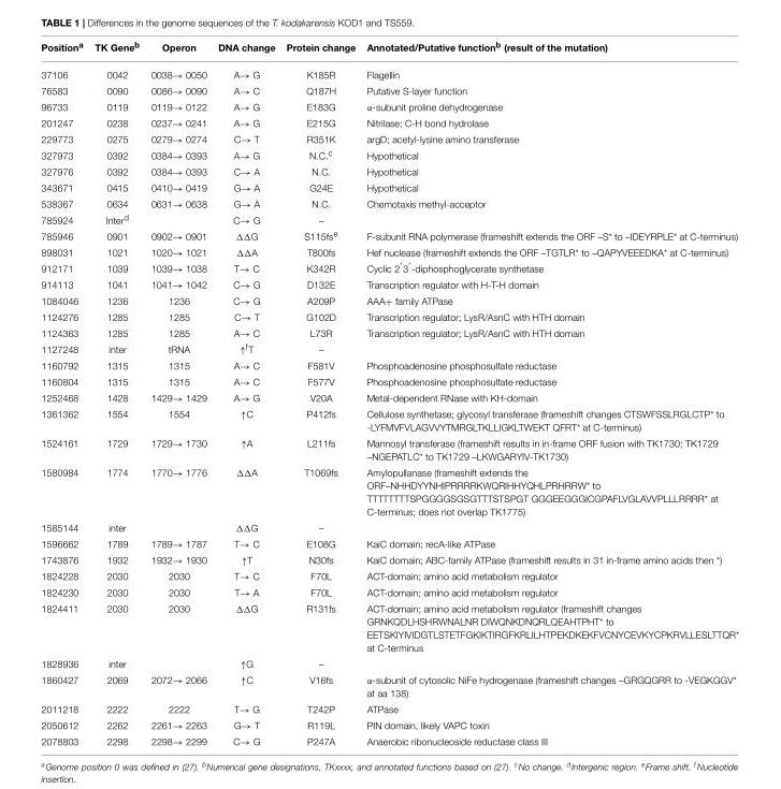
<table><thead><tr><td>Position<sup>a</sup></td><td>TK Gene<sup>b</sup></td><td>Operon</td><td>DNA change</td><td>Protein change</td><td>Annotated/Putative function<sup>b</sup> (result of the mutation)</td></tr></thead><tbody><tr><td>37106</td><td>0042</td><td>0038→ 0050</td><td>A→ G</td><td>K185R</td><td>Flagellin</td></tr><tr><td>76583</td><td>0090</td><td>0086→ 0090</td><td>A→ C</td><td>Q187H</td><td>Putative S-layer function</td></tr><tr><td>96733</td><td>0119</td><td>0119→ 0122</td><td>A→ G</td><td>E183G</td><td>α-subunit proline dehydrogenase</td></tr><tr><td>201247</td><td>0238</td><td>0237→ 0241</td><td>A→ G</td><td>E215G</td><td>Nitrilase; C-H bond hydrolase</td></tr><tr><td>229773</td><td>0275</td><td>0279→ 0274</td><td>C→ T</td><td>R351K</td><td>argD; acetyl-lysine amino transferase</td></tr><tr><td>327973</td><td>0392</td><td>0384→ 0393</td><td>A→ G</td><td>N.C.<sup>c</sup></td><td>Hypothetical</td></tr><tr><td>327976</td><td>0392</td><td>0384→ 0393</td><td>C→ A</td><td>N.C.</td><td>Hypothetical</td></tr><tr><td>343671</td><td>0415</td><td>0410→ 0419</td><td>G→ A</td><td>G24E</td><td>Hypothetical</td></tr><tr><td>538367</td><td>0634</td><td>0631→ 0638</td><td>G→ A</td><td>N.C.</td><td>Chemotaxis methyl-acceptor</td></tr><tr><td>785924</td><td>Inter<sup>d</sup></td><td></td><td>C→ G</td><td>–</td><td></td></tr><tr><td>785946</td><td>0901</td><td>0902→ 0901</td><td>ΔΔG</td><td>S115fs<sup>e</sup></td><td>F-subunit RNA polymerase (frameshift extends the ORF –S* to –IDEYRPLE* at C-terminus)</td></tr><tr><td>898031</td><td>1021</td><td>1020→ 1021</td><td>ΔΔA</td><td>T800fs</td><td>Hef nuclease (frameshift extends the ORF –TGTLR* to –QAPYVEEEDKA* at C-terminus)</td></tr><tr><td>912171</td><td>1039</td><td>1039→ 1038</td><td>T→ C</td><td>K342R</td><td>Cyclic 2 ′3 ′-diphosphoglycerate synthetase</td></tr><tr><td>914113</td><td>1041</td><td>1041→ 1042</td><td>C→ G</td><td>D132E</td><td>Transcription regulator with H-T-H domain</td></tr><tr><td>1084046</td><td>1236</td><td>1236</td><td>C→ G</td><td>A209P</td><td>AAA+ family ATPase</td></tr><tr><td>1124276</td><td>1285</td><td>1285</td><td>C→ T</td><td>G102D</td><td>Transcription regulator; LysR/AsnC with HTH domain</td></tr><tr><td>1124363</td><td>1285</td><td>1285</td><td>A→ C</td><td>L73R</td><td>Transcription regulator; LysR/AsnC with HTH domain</td></tr><tr><td>1127248</td><td>inter</td><td>tRNA</td><td>↑<sup>f</sup>T</td><td>–</td><td></td></tr><tr><td>1160792</td><td>1315</td><td>1315</td><td>A→ C</td><td>F581V</td><td>Phosphoadenosine phosphosulfate reductase</td></tr><tr><td>1160804</td><td>1315</td><td>1315</td><td>A→ C</td><td>F577V</td><td>Phosphoadenosine phosphosulfate reductase</td></tr><tr><td>1252468</td><td>1428</td><td>1429→ 1429</td><td>A→ G</td><td>V20A</td><td>Metal-dependent RNase with KH-domain</td></tr><tr><td>1361362</td><td>1554</td><td>1554</td><td>↑C</td><td>P412fs</td><td>Cellulose synthetase; glycosyl transferase (frameshift changes CTSWFSSLRGLCTP* to -LYFMVFVLAGVVYTMRGLTKLLIGKLTWEKT QFRT* at C-terminus)</td></tr><tr><td>1524161</td><td>1729</td><td>1729→ 1730</td><td>↑A</td><td>L211fs</td><td>Mannosyl transferase (frameshift results in in-frame ORF fusion with TK1730; TK1729 –NGEPATLC* to TK1729 –LKWGARYIV-TK1730)</td></tr><tr><td>1580984</td><td>1774</td><td>1770→ 1776</td><td>ΔΔA</td><td>T1069fs</td><td>Amylopullanase (frameshift extends the ORF–NHHDYYNHIPRRRRKWQRIHHYQHLPRHRRW* to TTTTTTTTSPGGGGSGSGTTTSTSPGT GGGEEGGGICGPAFLVGLAVVPLLLRRRR* at C-terminus; does not overlap TK1775)</td></tr><tr><td>1585144</td><td>inter</td><td></td><td>ΔΔG</td><td>–</td><td></td></tr><tr><td>1596662</td><td>1789</td><td>1789→ 1787</td><td>T→ C</td><td>E108G</td><td>KaiC domain; recA-like ATPase</td></tr><tr><td>1743876</td><td>1932</td><td>1932→ 1930</td><td>↑T</td><td>N30fs</td><td>KaiC domain; ABC-family ATPase (frameshift results in 31 in-frame amino acids then *)</td></tr><tr><td>1824228</td><td>2030</td><td>2030</td><td>T→ C</td><td>F70L</td><td>ACT-domain; amino acid metabolism regulator</td></tr><tr><td>1824230</td><td>2030</td><td>2030</td><td>T→ A</td><td>F70L</td><td>ACT-domain; amino acid metabolism regulator</td></tr><tr><td>1824411</td><td>2030</td><td>2030</td><td>ΔΔG</td><td>R131fs</td><td>ACT-domain; amino acid metabolism regulator (frameshift changes GRNKQDLHSHRWNALNR DIWQNKDNQRLQEAHTPHT* to EETSKIYIVIDGTLSTETFGKIKTIRGFKRLILHTPEKDKEKFVCNYCEVKYCPKRVLLESLTTQR* at C-terminus</td></tr><tr><td>1828936</td><td>inter</td><td></td><td>↑G</td><td>–</td><td></td></tr><tr><td>1860427</td><td>2069</td><td>2072→ 2066</td><td>↑C</td><td>V16fs</td><td>α-subunit of cytosolic NiFe hydrogenase (frameshift changes –GRGQGRR to -VEGKGGV* at aa 138)</td></tr><tr><td>2011218</td><td>2222</td><td>2222</td><td>T→ G</td><td>T242P</td><td>ATPase</td></tr><tr><td>2050612</td><td>2262</td><td>2261→ 2263</td><td>G→ T</td><td>R119L</td><td>PIN domain, likely VAPC toxin</td></tr><tr><td>2078803</td><td>2298</td><td>2298→ 2299</td><td>C→ G</td><td>P247A</td><td>Anaerobic ribonucleoside reductase class III</td></tr></tbody></table>